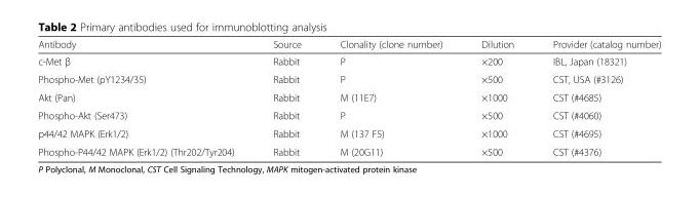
<table><thead><tr><td>Antibody</td><td>Source</td><td>Clonality (clone number)</td><td>Dilution</td><td>Provider (catalog number)</td></tr></thead><tbody><tr><td>c-Met β</td><td>Rabbit</td><td>P</td><td>×200</td><td>IBL, Japan (18321)</td></tr><tr><td>Phospho-Met (pY1234/35)</td><td>Rabbit</td><td>P</td><td>×500</td><td>CST, USA (#3126)</td></tr><tr><td>Akt (Pan)</td><td>Rabbit</td><td>M (11E7)</td><td>×1000</td><td>CST (#4685)</td></tr><tr><td>Phospho-Akt (Ser473)</td><td>Rabbit</td><td>P</td><td>×500</td><td>CST (#4060)</td></tr><tr><td>p44/42 MAPK (Erk1/2)</td><td>Rabbit</td><td>M (137 F5)</td><td>×1000</td><td>CST (#4695)</td></tr><tr><td>Phospho-P44/42 MAPK (Erk1/2) (Thr202/Tyr204)</td><td>Rabbit</td><td>M (20G11)</td><td>×500</td><td>CST (#4376)</td></tr></tbody></table>